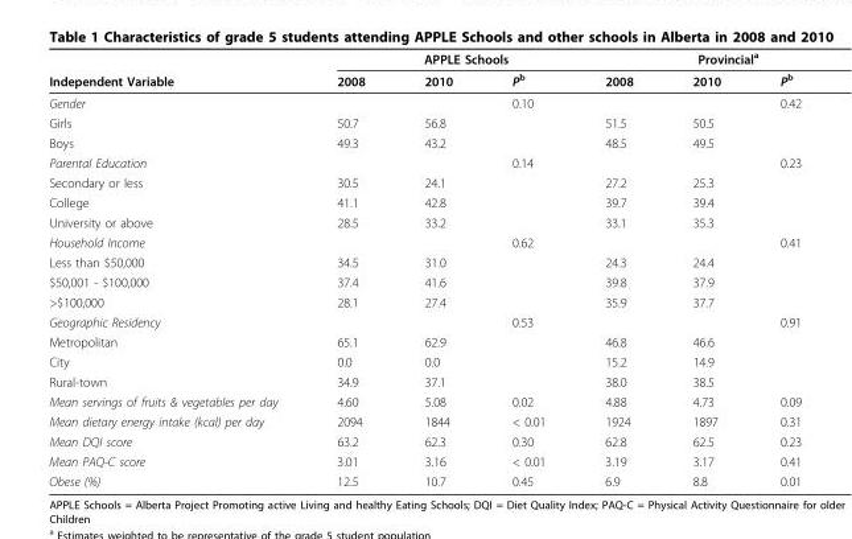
<table><thead><tr><td rowspan="2">Independent Variable</td><td colspan="3">APPLE Schools</td><td colspan="3">Provincial<sup>a</sup></td></tr><tr><td>2008</td><td>2010</td><td>P<sup>b</sup></td><td>2008</td><td>2010</td><td>P<sup>b</sup></td></tr></thead><tbody><tr><td>Gender</td><td></td><td></td><td>0.10</td><td></td><td></td><td>0.42</td></tr><tr><td>Girls</td><td>50.7</td><td>56.8</td><td></td><td>51.5</td><td>50.5</td><td></td></tr><tr><td>Boys</td><td>49.3</td><td>43.2</td><td></td><td>48.5</td><td>49.5</td><td></td></tr><tr><td>Parental Education</td><td></td><td></td><td>0.14</td><td></td><td></td><td>0.23</td></tr><tr><td>Secondary or less</td><td>30.5</td><td>24.1</td><td></td><td>27.2</td><td>25.3</td><td></td></tr><tr><td>College</td><td>41.1</td><td>42.8</td><td></td><td>39.7</td><td>39.4</td><td></td></tr><tr><td>University or above</td><td>28.5</td><td>33.2</td><td></td><td>33.1</td><td>35.3</td><td></td></tr><tr><td>Household Income</td><td></td><td></td><td>0.62</td><td></td><td></td><td>0.41</td></tr><tr><td>Less than $50,000</td><td>34.5</td><td>31.0</td><td></td><td>24.3</td><td>24.4</td><td></td></tr><tr><td>$50,001 - $100,000</td><td>37.4</td><td>41.6</td><td></td><td>39.8</td><td>37.9</td><td></td></tr><tr><td>&gt;$100,000</td><td>28.1</td><td>27.4</td><td></td><td>35.9</td><td>37.7</td><td></td></tr><tr><td>Geographic Residency</td><td></td><td></td><td>0.53</td><td></td><td></td><td>0.91</td></tr><tr><td>Metropolitan</td><td>65.1</td><td>62.9</td><td></td><td>46.8</td><td>46.6</td><td></td></tr><tr><td>City</td><td>0.0</td><td>0.0</td><td></td><td>15.2</td><td>14.9</td><td></td></tr><tr><td>Rural-town</td><td>34.9</td><td>37.1</td><td></td><td>38.0</td><td>38.5</td><td></td></tr><tr><td>Mean servings of fruits &amp; vegetables per day</td><td>4.60</td><td>5.08</td><td>0.02</td><td>4.88</td><td>4.73</td><td>0.09</td></tr><tr><td>Mean dietary energy intake (kcal) per day</td><td>2094</td><td>1844</td><td>&lt; 0.01</td><td>1924</td><td>1897</td><td>0.31</td></tr><tr><td>Mean DQI score</td><td>63.2</td><td>62.3</td><td>0.30</td><td>62.8</td><td>62.5</td><td>0.23</td></tr><tr><td>Mean PAQ-C score</td><td>3.01</td><td>3.16</td><td>&lt; 0.01</td><td>3.19</td><td>3.17</td><td>0.41</td></tr><tr><td>Obese (%)</td><td>12.5</td><td>10.7</td><td>0.45</td><td>6.9</td><td>8.8</td><td>0.01</td></tr></tbody></table>